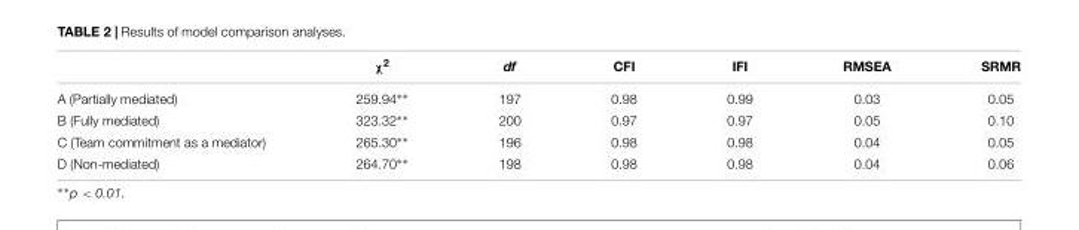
<table><thead><tr><td></td><td>χ<sup>2</sup></td><td>df</td><td>CFI</td><td>IFI</td><td>RMSEA</td><td>SRMR</td></tr></thead><tbody><tr><td>A (Partially mediated)</td><td>259.94∗∗</td><td>197</td><td>0.98</td><td>0.99</td><td>0.03</td><td>0.05</td></tr><tr><td>B (Fully mediated)</td><td>323.32∗∗</td><td>200</td><td>0.97</td><td>0.97</td><td>0.05</td><td>0.10</td></tr><tr><td>C (Team commitment as a mediator)</td><td>265.30∗∗</td><td>196</td><td>0.98</td><td>0.98</td><td>0.04</td><td>0.05</td></tr><tr><td>D (Non-mediated)</td><td>264.70∗∗</td><td>198</td><td>0.98</td><td>0.98</td><td>0.04</td><td>0.06</td></tr></tbody></table>